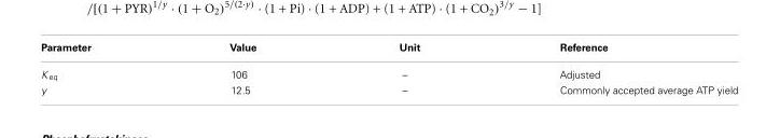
<table><thead><tr><td>Parameter</td><td>Value</td><td>Unit</td><td>Reference</td></tr></thead><tbody><tr><td>K <sub>eq</sub></td><td>106</td><td>–</td><td>Adjusted</td></tr><tr><td>y</td><td>12.5</td><td>–</td><td>Commonly accepted average ATP yield</td></tr></tbody></table>